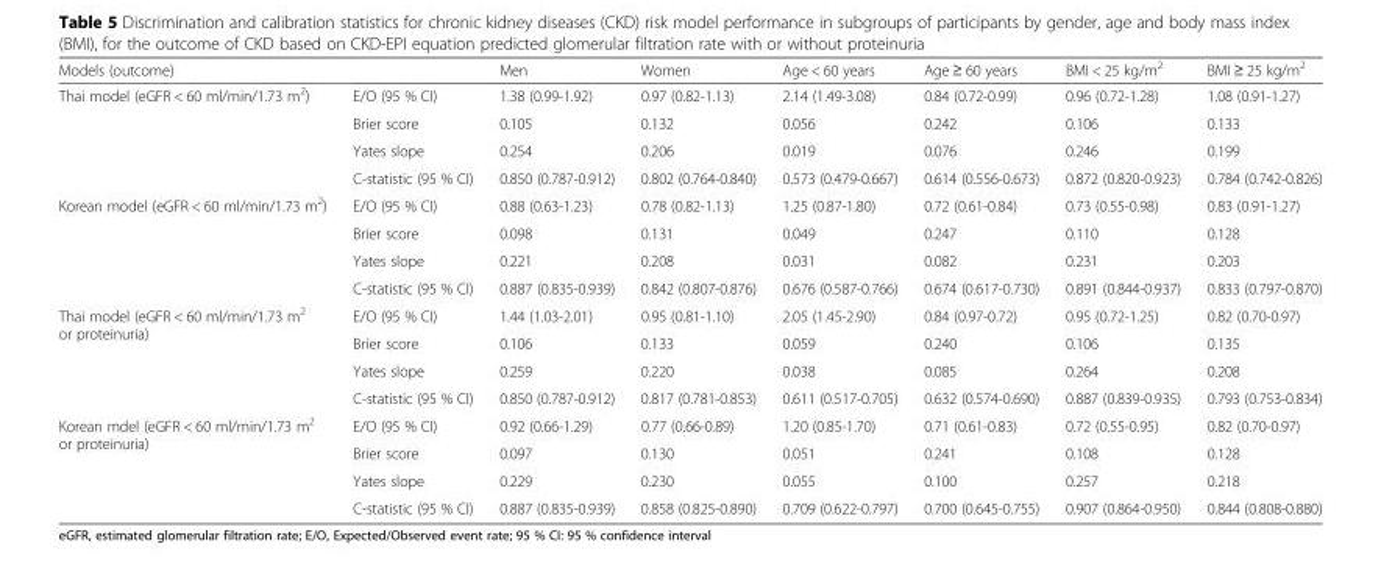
<table><thead><tr><td>Models (outcome)</td><td></td><td>Men</td><td>Women</td><td>Age &lt; 60 years</td><td>Age ≥ 60 years</td><td>BMI &lt; 25 kg/m<sup>2</sup></td><td>BMI ≥ 25 kg/m<sup>2</sup></td></tr></thead><tbody><tr><td rowspan="4">Thai model (eGFR &lt; 60 ml/min/1.73 m<sup>2</sup>)</td><td>E/O (95 % CI)</td><td>1.38 (0.99-1.92)</td><td>0.97 (0.82-1.13)</td><td>2.14 (1.49-3.08)</td><td>0.84 (0.72-0.99)</td><td>0.96 (0.72-1.28)</td><td>1.08 (0.91-1.27)</td></tr><tr><td>Brier score</td><td>0.105</td><td>0.132</td><td>0.056</td><td>0.242</td><td>0.106</td><td>0.133</td></tr><tr><td>Yates slope</td><td>0.254</td><td>0.206</td><td>0.019</td><td>0.076</td><td>0.246</td><td>0.199</td></tr><tr><td>C-statistic (95 % CI)</td><td>0.850 (0.787-0.912)</td><td>0.802 (0.764-0.840)</td><td>0.573 (0.479-0.667)</td><td>0.614 (0.556-0.673)</td><td>0.872 (0.820-0.923)</td><td>0.784 (0.742-0.826)</td></tr><tr><td rowspan="4">Korean model (eGFR &lt; 60 ml/min/1.73 m<sup>2</sup>)</td><td>E/O (95 % CI)</td><td>0.88 (0.63-1.23)</td><td>0.78 (0.82-1.13)</td><td>1.25 (0.87-1.80)</td><td>0.72 (0.61-0.84)</td><td>0.73 (0.55-0.98)</td><td>0.83 (0.91-1.27)</td></tr><tr><td>Brier score</td><td>0.098</td><td>0.131</td><td>0.049</td><td>0.247</td><td>0.110</td><td>0.128</td></tr><tr><td>Yates slope</td><td>0.221</td><td>0.208</td><td>0.031</td><td>0.082</td><td>0.231</td><td>0.203</td></tr><tr><td>C-statistic (95 % CI)</td><td>0.887 (0.835-0.939)</td><td>0.842 (0.807-0.876)</td><td>0.676 (0.587-0.766)</td><td>0.674 (0.617-0.730)</td><td>0.891 (0.844-0.937)</td><td>0.833 (0.797-0.870)</td></tr><tr><td rowspan="4">Thai model (eGFR &lt; 60 ml/min/1.73 m<sup>2</sup> or proteinuria)</td><td>E/O (95 % CI)</td><td>1.44 (1.03-2.01)</td><td>0.95 (0.81-1.10)</td><td>2.05 (1.45-2.90)</td><td>0.84 (0.97-0.72)</td><td>0.95 (0.72-1.25)</td><td>0.82 (0.70-0.97)</td></tr><tr><td>Brier score</td><td>0.106</td><td>0.133</td><td>0.059</td><td>0.240</td><td>0.106</td><td>0.135</td></tr><tr><td>Yates slope</td><td>0.259</td><td>0.220</td><td>0.038</td><td>0.085</td><td>0.264</td><td>0.208</td></tr><tr><td>C-statistic (95 % CI)</td><td>0.850 (0.787-0.912)</td><td>0.817 (0.781-0.853)</td><td>0.611 (0.517-0.705)</td><td>0.632 (0.574-0.690)</td><td>0.887 (0.839-0.935)</td><td>0.793 (0.753-0.834)</td></tr><tr><td rowspan="4">Korean mdel (eGFR &lt; 60 ml/min/1.73 m<sup>2</sup> or proteinuria)</td><td>E/O (95 % CI)</td><td>0.92 (0.66-1.29)</td><td>0.77 (0.66-0.89)</td><td>1.20 (0.85-1.70)</td><td>0.71 (0.61-0.83)</td><td>0.72 (0.55-0.95)</td><td>0.82 (0.70-0.97)</td></tr><tr><td>Brier score</td><td>0.097</td><td>0.130</td><td>0.051</td><td>0.241</td><td>0.108</td><td>0.128</td></tr><tr><td>Yates slope</td><td>0.229</td><td>0.230</td><td>0.055</td><td>0.100</td><td>0.257</td><td>0.218</td></tr><tr><td>C-statistic (95 % CI)</td><td>0.887 (0.835-0.939)</td><td>0.858 (0.825-0.890)</td><td>0.709 (0.622-0.797)</td><td>0.700 (0.645-0.755)</td><td>0.907 (0.864-0.950)</td><td>0.844 (0.808-0.880)</td></tr></tbody></table>